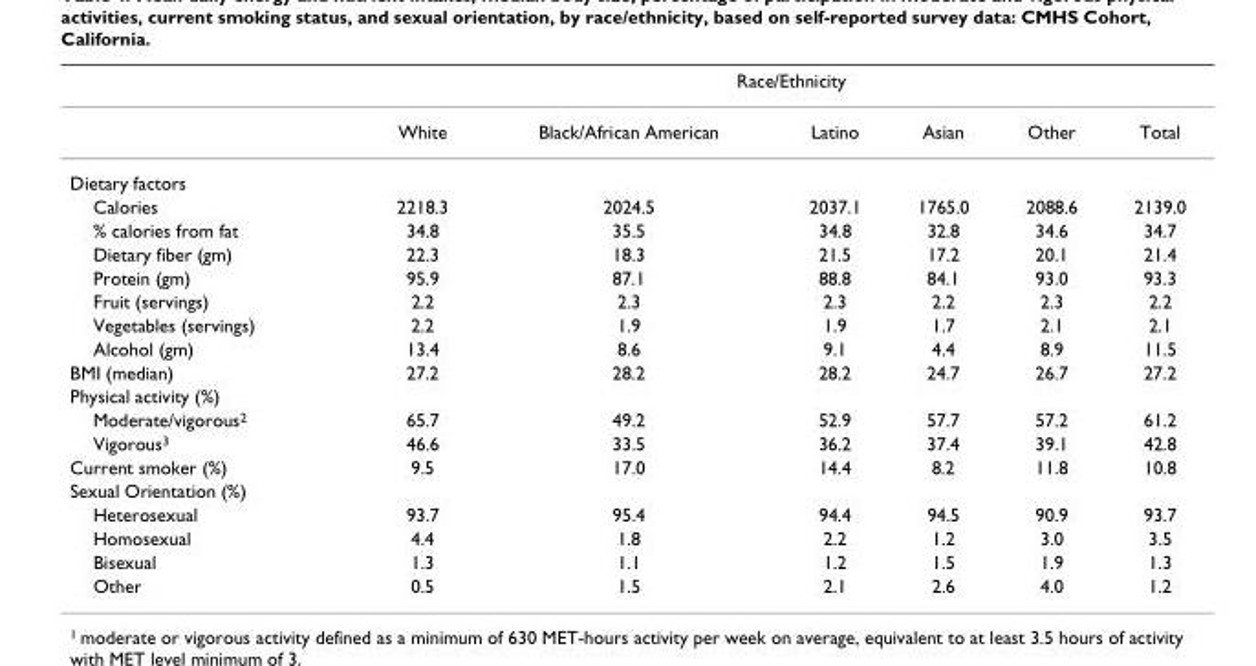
<table><thead><tr><td rowspan="2"></td><td colspan="6">Race/Ethnicity</td></tr><tr><td>White</td><td>Black/African American</td><td>Latino</td><td>Asian</td><td>Other</td><td>Total</td></tr></thead><tbody><tr><td colspan="7">Dietary factors</td></tr><tr><td>Calories</td><td>2218.3</td><td>2024.5</td><td>2037.1</td><td>1765.0</td><td>2088.6</td><td>2139.0</td></tr><tr><td>% calories from fat</td><td>34.8</td><td>35.5</td><td>34.8</td><td>32.8</td><td>34.6</td><td>34.7</td></tr><tr><td>Dietary fiber (gm)</td><td>22.3</td><td>18.3</td><td>21.5</td><td>17.2</td><td>20.1</td><td>21.4</td></tr><tr><td>Protein (gm)</td><td>95.9</td><td>87.1</td><td>88.8</td><td>84.1</td><td>93.0</td><td>93.3</td></tr><tr><td>Fruit (servings)</td><td>2.2</td><td>2.3</td><td>2.3</td><td>2.2</td><td>2.3</td><td>2.2</td></tr><tr><td>Vegetables (servings)</td><td>2.2</td><td>1.9</td><td>1.9</td><td>1.7</td><td>2.1</td><td>2.1</td></tr><tr><td>Alcohol (gm)</td><td>13.4</td><td>8.6</td><td>9.1</td><td>4.4</td><td>8.9</td><td>11.5</td></tr><tr><td>BMI (median)</td><td>27.2</td><td>28.2</td><td>28.2</td><td>24.7</td><td>26.7</td><td>27.2</td></tr><tr><td colspan="7">Physical activity (%)</td></tr><tr><td>Moderate/vigorous2</td><td>65.7</td><td>49.2</td><td>52.9</td><td>57.7</td><td>57.2</td><td>61.2</td></tr><tr><td>Vigorous3</td><td>46.6</td><td>33.5</td><td>36.2</td><td>37.4</td><td>39.1</td><td>42.8</td></tr><tr><td>Current smoker (%)</td><td>9.5</td><td>17.0</td><td>14.4</td><td>8.2</td><td>11.8</td><td>10.8</td></tr><tr><td colspan="7">Sexual Orientation (%)</td></tr><tr><td>Heterosexual</td><td>93.7</td><td>95.4</td><td>94.4</td><td>94.5</td><td>90.9</td><td>93.7</td></tr><tr><td>Homosexual</td><td>4.4</td><td>1.8</td><td>2.2</td><td>1.2</td><td>3.0</td><td>3.5</td></tr><tr><td>Bisexual</td><td>1.3</td><td>1.1</td><td>1.2</td><td>1.5</td><td>1.9</td><td>1.3</td></tr><tr><td>Other</td><td>0.5</td><td>1.5</td><td>2.1</td><td>2.6</td><td>4.0</td><td>1.2</td></tr></tbody></table>